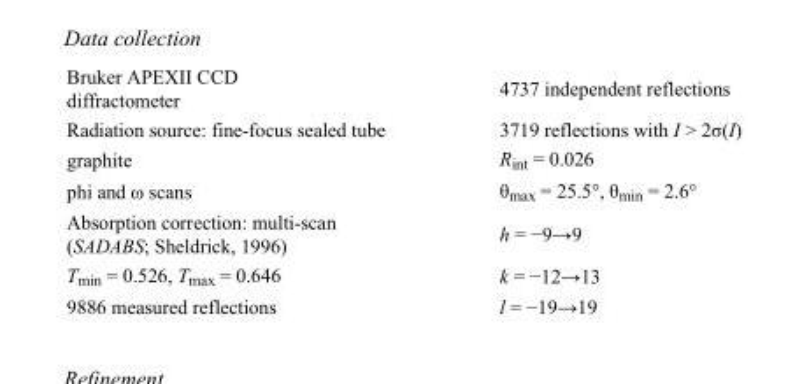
<table><tbody><tr><td>Bruker APEXII CCD diffractometer</td><td>4737 independent reflections</td></tr><tr><td>Radiation source: fine-focus sealed tube</td><td>3719 reflections with I &gt; 2σ(I)</td></tr><tr><td>graphite</td><td>R<sub>int</sub> = 0.026</td></tr><tr><td>phi and ω scans</td><td>θ<sub>max</sub> = 25.5°, θ<sub>min</sub> = 2.6°</td></tr><tr><td>Absorption correction: multi-scan (SADABS; Sheldrick, 1996)</td><td>h = −9→9</td></tr><tr><td>T<sub>min</sub> = 0.526, T<sub>max</sub> = 0.646</td><td>k = −12→13</td></tr><tr><td>9886 measured reflections</td><td>l = −19→19</td></tr></tbody></table>